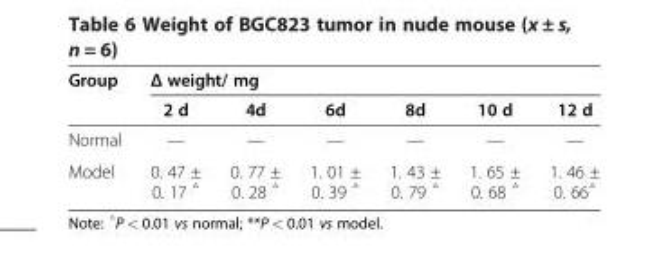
<table><thead><tr><td rowspan="2">Group</td><td colspan="6">Δ weight/ mg</td></tr><tr><td>2 d</td><td>4d</td><td>6d</td><td>8d</td><td>10 d</td><td>12 d</td></tr></thead><tbody><tr><td>Normal</td><td>—</td><td>—</td><td>—</td><td>—</td><td>—</td><td>—</td></tr><tr><td>Model</td><td>0. 47 ± 0. 17 <sup>△</sup></td><td>0. 77 ± 0. 28 <sup>△</sup></td><td>1. 01 ± 0. 39 <sup>△</sup></td><td>1. 43 ± 0. 79 <sup>△</sup></td><td>1. 65 ± 0. 68 <sup>△</sup></td><td>1. 46 ± 0. 66<sup>△</sup></td></tr></tbody></table>